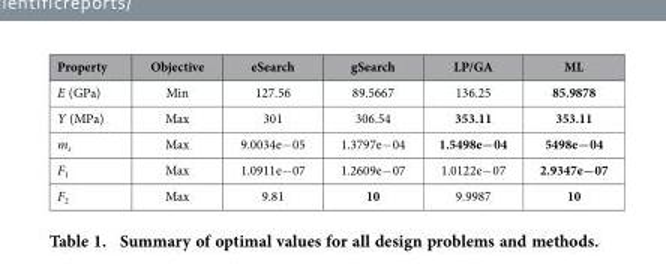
<table><thead><tr><td>Property</td><td>Objective</td><td>eSearch</td><td>gSearch</td><td>LP/GA</td><td>ML</td></tr></thead><tbody><tr><td>E (GPa)</td><td>Min</td><td>127.56</td><td>89.5667</td><td>136.25</td><td>85.9878</td></tr><tr><td>Y (MPa)</td><td>Max</td><td>301</td><td>306.54</td><td>353.11</td><td>353.11</td></tr><tr><td>m<sub>s</sub></td><td>Max</td><td>9.0034e− 05</td><td>1.3797e− 04</td><td>1.5498e−04</td><td>5498e−04</td></tr><tr><td>F<sub>1</sub></td><td>Max</td><td>1.0911e− 07</td><td>1.2609e− 07</td><td>1.0122e− 07</td><td>2.9347e−07</td></tr><tr><td>F<sub>2</sub></td><td>Max</td><td>9.81</td><td>10</td><td>9.9987</td><td>10</td></tr></tbody></table>